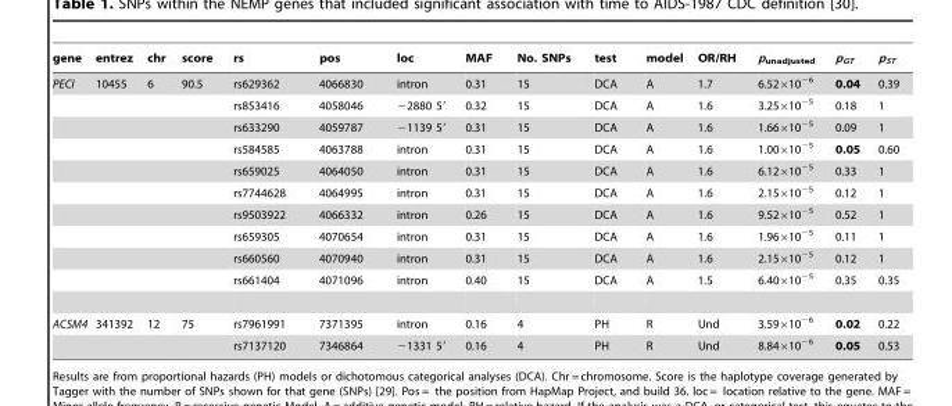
<table><thead><tr><td>gene</td><td>entrez</td><td>chr</td><td>score</td><td>rs</td><td>pos</td><td>loc</td><td>MAF</td><td>No. SNPs</td><td>test</td><td>model</td><td>OR/RH</td><td>p<sub>unadjusted</sub></td><td>p<sub>GT</sub></td><td>p<sub>ST</sub></td></tr></thead><tbody><tr><td rowspan="10">PECI</td><td>10455</td><td>6</td><td>90.5</td><td>rs629362</td><td>4066830</td><td>intron</td><td>0.31</td><td>15</td><td>DCA</td><td>A</td><td>1.7</td><td>6.52×10<sup>−6</sup></td><td>0.04</td><td>0.39</td></tr><tr><td></td><td></td><td></td><td>rs853416</td><td>4058046</td><td>−2880 5′</td><td>0.32</td><td>15</td><td>DCA</td><td>A</td><td>1.6</td><td>3.25×10<sup>−5</sup></td><td>0.18</td><td>1</td></tr><tr><td></td><td></td><td></td><td>rs633290</td><td>4059787</td><td>−1139 5′</td><td>0.31</td><td>15</td><td>DCA</td><td>A</td><td>1.6</td><td>1.66×10<sup>−5</sup></td><td>0.09</td><td>1</td></tr><tr><td></td><td></td><td></td><td>rs584585</td><td>4063788</td><td>intron</td><td>0.31</td><td>15</td><td>DCA</td><td>A</td><td>1.6</td><td>1.00×10<sup>−5</sup></td><td>0.05</td><td>0.60</td></tr><tr><td></td><td></td><td></td><td>rs659025</td><td>4064050</td><td>intron</td><td>0.31</td><td>15</td><td>DCA</td><td>A</td><td>1.6</td><td>6.12×10<sup>−5</sup></td><td>0.33</td><td>1</td></tr><tr><td></td><td></td><td></td><td>rs7744628</td><td>4064995</td><td>intron</td><td>0.31</td><td>15</td><td>DCA</td><td>A</td><td>1.6</td><td>2.15×10<sup>−5</sup></td><td>0.12</td><td>1</td></tr><tr><td></td><td></td><td></td><td>rs9503922</td><td>4066332</td><td>intron</td><td>0.26</td><td>15</td><td>DCA</td><td>A</td><td>1.6</td><td>9.52×10<sup>−5</sup></td><td>0.52</td><td>1</td></tr><tr><td></td><td></td><td></td><td>rs659305</td><td>4070654</td><td>intron</td><td>0.31</td><td>15</td><td>DCA</td><td>A</td><td>1.6</td><td>1.96×10<sup>−5</sup></td><td>0.11</td><td>1</td></tr><tr><td></td><td></td><td></td><td>rs660560</td><td>4070940</td><td>intron</td><td>0.31</td><td>15</td><td>DCA</td><td>A</td><td>1.6</td><td>2.15×10<sup>−5</sup></td><td>0.12</td><td>1</td></tr><tr><td></td><td></td><td></td><td>rs661404</td><td>4071096</td><td>intron</td><td>0.40</td><td>15</td><td>DCA</td><td>A</td><td>1.5</td><td>6.40×10<sup>−5</sup></td><td>0.35</td><td>0.35</td></tr><tr><td rowspan="2">ACSM4</td><td>341392</td><td>12</td><td>75</td><td>rs7961991</td><td>7371395</td><td>intron</td><td>0.16</td><td>4</td><td>PH</td><td>R</td><td>Und</td><td>3.59×10<sup>−6</sup></td><td>0.02</td><td>0.22</td></tr><tr><td></td><td></td><td></td><td>rs7137120</td><td>7346864</td><td>−1331 5′</td><td>0.16</td><td>4</td><td>PH</td><td>R</td><td>Und</td><td>8.84×10<sup>−6</sup></td><td>0.05</td><td>0.53</td></tr></tbody></table>